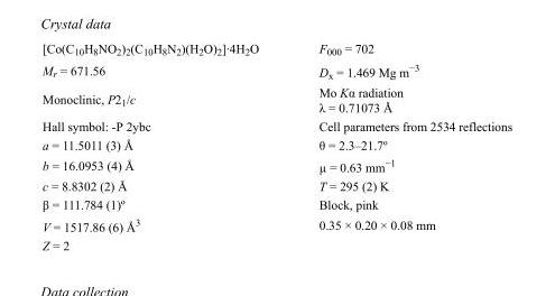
<table><tbody><tr><td>[Co(C<sub>10</sub>H<sub>8</sub>NO<sub>2</sub>)<sub>2</sub>(C<sub>10</sub>H<sub>8</sub>N<sub>2</sub>)(H<sub>2</sub>O)<sub>2</sub>]·4H<sub>2</sub>O</td><td>F<sub>000</sub> = 702</td></tr><tr><td>M<sub>r</sub> = 671.56</td><td>D<sub>x</sub> = 1.469 Mg m<sup>−3</sup></td></tr><tr><td>Monoclinic, P2<sub>1</sub>/c</td><td>Mo Kα radiation λ = 0.71073 Å</td></tr><tr><td>Hall symbol: -P 2ybc</td><td>Cell parameters from 2534 reflections</td></tr><tr><td>a = 11.5011 (3) Å</td><td>θ = 2.3–21.7º</td></tr><tr><td>b = 16.0953 (4) Å</td><td>µ = 0.63 mm<sup>−1</sup></td></tr><tr><td>c = 8.8302 (2) Å</td><td>T = 295 (2) K</td></tr><tr><td>β = 111.784 (1)º</td><td>Block, pink</td></tr><tr><td>V = 1517.86 (6) Å<sup>3</sup></td><td>0.35 × 0.20 × 0.08 mm</td></tr><tr><td>Z = 2</td><td></td></tr></tbody></table>